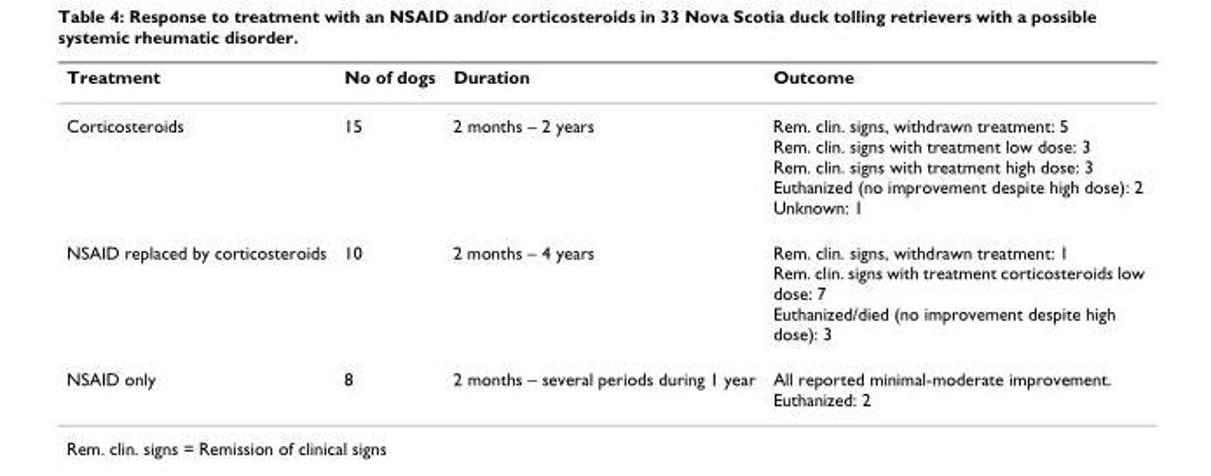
<table><thead><tr><td>Treatment</td><td>No of dogs</td><td>Duration</td><td>Outcome</td></tr></thead><tbody><tr><td>Corticosteroids</td><td>15</td><td>2 months – 2 years</td><td>Rem. clin. signs, withdrawn treatment: 5 Rem. clin. signs with treatment low dose: 3 Rem. clin. signs with treatment high dose: 3 Euthanized (no improvement despite high dose): 2 Unknown: 1</td></tr><tr><td>NSAID replaced by corticosteroids</td><td>10</td><td>2 months – 4 years</td><td>Rem. clin. signs, withdrawn treatment: 1 Rem. clin. signs with treatment corticosteroids low dose: 7 Euthanized/died (no improvement despite high dose): 3</td></tr><tr><td>NSAID only</td><td>8</td><td>2 months – several periods during 1 year</td><td>All reported minimal-moderate improvement. Euthanized: 2</td></tr></tbody></table>